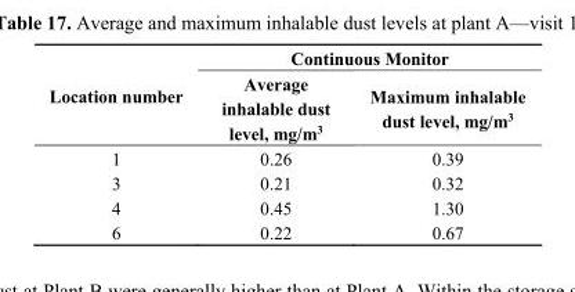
<table><thead><tr><td rowspan="2">Location number</td><td colspan="2">Continuous Monitor</td></tr><tr><td>Average inhalable dust level, mg/m<sup>3</sup></td><td>Maximum inhalable dust level, mg/m<sup>3</sup></td></tr></thead><tbody><tr><td>1</td><td>0.26</td><td>0.39</td></tr><tr><td>3</td><td>0.21</td><td>0.32</td></tr><tr><td>4</td><td>0.45</td><td>1.30</td></tr><tr><td>6</td><td>0.22</td><td>0.67</td></tr></tbody></table>